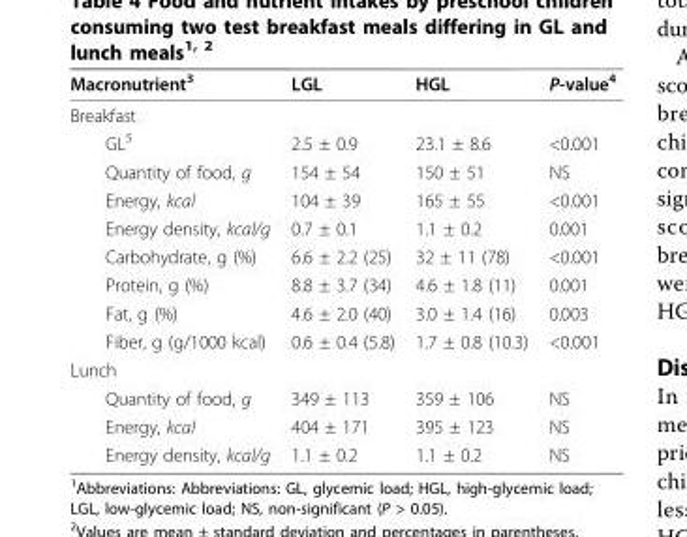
<table><thead><tr><td>Macronutrient<sup>3</sup></td><td>LGL</td><td>HGL</td><td>P-value<sup>4</sup></td></tr></thead><tbody><tr><td colspan="4">Breakfast</td></tr><tr><td>GL<sup>5</sup></td><td>2.5 ± 0.9</td><td>23.1 ± 8.6</td><td>&lt;0.001</td></tr><tr><td>Quantity of food, g</td><td>154 ± 54</td><td>150 ± 51</td><td>NS</td></tr><tr><td>Energy, kcal</td><td>104 ± 39</td><td>165 ± 55</td><td>&lt;0.001</td></tr><tr><td>Energy density, kcal/g</td><td>0.7 ± 0.1</td><td>1.1 ± 0.2</td><td>0.001</td></tr><tr><td>Carbohydrate, g (%)</td><td>6.6 ± 2.2 (25)</td><td>32 ± 11 (78)</td><td>&lt;0.001</td></tr><tr><td>Protein, g (%)</td><td>8.8 ± 3.7 (34)</td><td>4.6 ± 1.8 (11)</td><td>0.001</td></tr><tr><td>Fat, g (%)</td><td>4.6 ± 2.0 (40)</td><td>3.0 ± 1.4 (16)</td><td>0.003</td></tr><tr><td>Fiber, g (g/1000 kcal)</td><td>0.6 ± 0.4 (5.8)</td><td>1.7 ± 0.8 (10.3)</td><td>&lt;0.001</td></tr><tr><td colspan="4">Lunch</td></tr><tr><td>Quantity of food, g</td><td>349 ± 113</td><td>359 ± 106</td><td>NS</td></tr><tr><td>Energy, kcal</td><td>404 ± 171</td><td>395 ± 123</td><td>NS</td></tr><tr><td>Energy density, kcal/g</td><td>1.1 ± 0.2</td><td>1.1 ± 0.2</td><td>NS</td></tr></tbody></table>